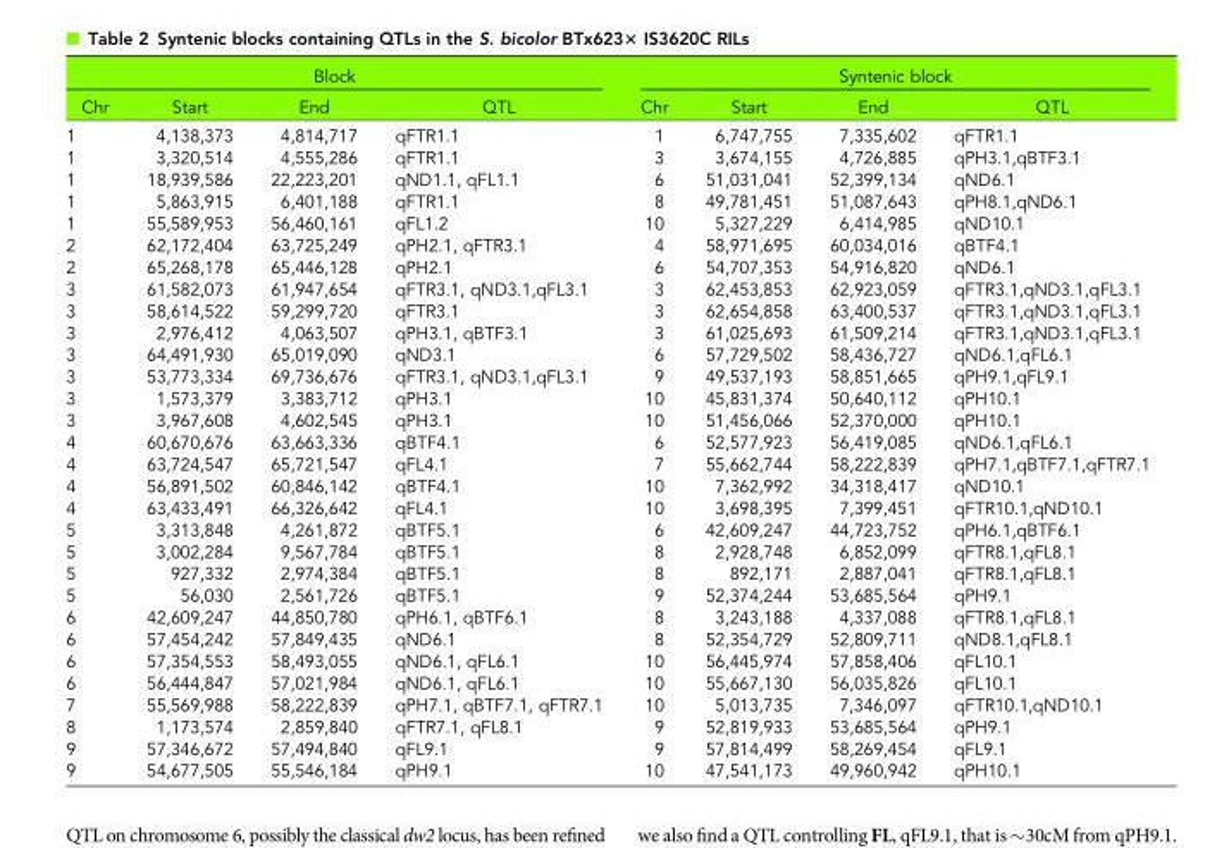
<table><thead><tr><td colspan="4">Block</td><td colspan="4">Syntenic block</td></tr><tr><td>Chr</td><td>Start</td><td>End</td><td>QTL</td><td>Chr</td><td>Start</td><td>End</td><td>QTL</td></tr></thead><tbody><tr><td>1</td><td>4,138,373</td><td>4,814,717</td><td>qFTR1.1</td><td>1</td><td>6,747,755</td><td>7,335,602</td><td>qFTR1.1</td></tr><tr><td>1</td><td>3,320,514</td><td>4,555,286</td><td>qFTR1.1</td><td>3</td><td>3,674,155</td><td>4,726,885</td><td>qPH3.1,qBTF3.1</td></tr><tr><td>1</td><td>18,939,586</td><td>22,223,201</td><td>qND1.1, qFL1.1</td><td>6</td><td>51,031,041</td><td>52,399,134</td><td>qND6.1</td></tr><tr><td>1</td><td>5,863,915</td><td>6,401,188</td><td>qFTR1.1</td><td>8</td><td>49,781,451</td><td>51,087,643</td><td>qPH8.1,qND6.1</td></tr><tr><td>1</td><td>55,589,953</td><td>56,460,161</td><td>qFL1.2</td><td>10</td><td>5,327,229</td><td>6,414,985</td><td>qND10.1</td></tr><tr><td>2</td><td>62,172,404</td><td>63,725,249</td><td>qPH2.1, qFTR3.1</td><td>4</td><td>58,971,695</td><td>60,034,016</td><td>qBTF4.1</td></tr><tr><td>2</td><td>65,268,178</td><td>65,446,128</td><td>qPH2.1</td><td>6</td><td>54,707,353</td><td>54,916,820</td><td>qND6.1</td></tr><tr><td>3</td><td>61,582,073</td><td>61,947,654</td><td>qFTR3.1, qND3.1,qFL3.1</td><td>3</td><td>62,453,853</td><td>62,923,059</td><td>qFTR3.1,qND3.1,qFL3.1</td></tr><tr><td>3</td><td>58,614,522</td><td>59,299,720</td><td>qFTR3.1</td><td>3</td><td>62,654,858</td><td>63,400,537</td><td>qFTR3.1,qND3.1,qFL3.1</td></tr><tr><td>3</td><td>2,976,412</td><td>4,063,507</td><td>qPH3.1, qBTF3.1</td><td>3</td><td>61,025,693</td><td>61,509,214</td><td>qFTR3.1,qND3.1,qFL3.1</td></tr><tr><td>3</td><td>64,491,930</td><td>65,019,090</td><td>qND3.1</td><td>6</td><td>57,729,502</td><td>58,436,727</td><td>qND6.1,qFL6.1</td></tr><tr><td>3</td><td>53,773,334</td><td>69,736,676</td><td>qFTR3.1, qND3.1,qFL3.1</td><td>9</td><td>49,537,193</td><td>58,851,665</td><td>qPH9.1,qFL9.1</td></tr><tr><td>3</td><td>1,573,379</td><td>3,383,712</td><td>qPH3.1</td><td>10</td><td>45,831,374</td><td>50,640,112</td><td>qPH10.1</td></tr><tr><td>3</td><td>3,967,608</td><td>4,602,545</td><td>qPH3.1</td><td>10</td><td>51,456,066</td><td>52,370,000</td><td>qPH10.1</td></tr><tr><td>4</td><td>60,670,676</td><td>63,663,336</td><td>qBTF4.1</td><td>6</td><td>52,577,923</td><td>56,419,085</td><td>qND6.1,qFL6.1</td></tr><tr><td>4</td><td>63,724,547</td><td>65,721,547</td><td>qFL4.1</td><td>7</td><td>55,662,744</td><td>58,222,839</td><td>qPH7.1,qBTF7.1,qFTR7.1</td></tr><tr><td>4</td><td>56,891,502</td><td>60,846,142</td><td>qBTF4.1</td><td>10</td><td>7,362,992</td><td>34,318,417</td><td>qND10.1</td></tr><tr><td>4</td><td>63,433,491</td><td>66,326,642</td><td>qFL4.1</td><td>10</td><td>3,698,395</td><td>7,399,451</td><td>qFTR10.1,qND10.1</td></tr><tr><td>5</td><td>3,313,848</td><td>4,261,872</td><td>qBTF5.1</td><td>6</td><td>42,609,247</td><td>44,723,752</td><td>qPH6.1,qBTF6.1</td></tr><tr><td>5</td><td>3,002,284</td><td>9,567,784</td><td>qBTF5.1</td><td>8</td><td>2,928,748</td><td>6,852,099</td><td>qFTR8.1,qFL8.1</td></tr><tr><td>5</td><td>927,332</td><td>2,974,384</td><td>qBTF5.1</td><td>8</td><td>892,171</td><td>2,887,041</td><td>qFTR8.1,qFL8.1</td></tr><tr><td>5</td><td>56,030</td><td>2,561,726</td><td>qBTF5.1</td><td>9</td><td>52,374,244</td><td>53,685,564</td><td>qPH9.1</td></tr><tr><td>6</td><td>42,609,247</td><td>44,850,780</td><td>qPH6.1, qBTF6.1</td><td>8</td><td>3,243,188</td><td>4,337,088</td><td>qFTR8.1,qFL8.1</td></tr><tr><td>6</td><td>57,454,242</td><td>57,849,435</td><td>qND6.1</td><td>8</td><td>52,354,729</td><td>52,809,711</td><td>qND8.1,qFL8.1</td></tr><tr><td>6</td><td>57,354,553</td><td>58,493,055</td><td>qND6.1, qFL6.1</td><td>10</td><td>56,445,974</td><td>57,858,406</td><td>qFL10.1</td></tr><tr><td>6</td><td>56,444,847</td><td>57,021,984</td><td>qND6.1, qFL6.1</td><td>10</td><td>55,667,130</td><td>56,035,826</td><td>qFL10.1</td></tr><tr><td>7</td><td>55,569,988</td><td>58,222,839</td><td>qPH7.1, qBTF7.1, qFTR7.1</td><td>10</td><td>5,013,735</td><td>7,346,097</td><td>qFTR10.1,qND10.1</td></tr><tr><td>8</td><td>1,173,574</td><td>2,859,840</td><td>qFTR7.1, qFL8.1</td><td>9</td><td>52,819,933</td><td>53,685,564</td><td>qPH9.1</td></tr><tr><td>9</td><td>57,346,672</td><td>57,494,840</td><td>qFL9.1</td><td>9</td><td>57,814,499</td><td>58,269,454</td><td>qFL9.1</td></tr><tr><td>9</td><td>54,677,505</td><td>55,546,184</td><td>qPH9.1</td><td>10</td><td>47,541,173</td><td>49,960,942</td><td>qPH10.1</td></tr></tbody></table>